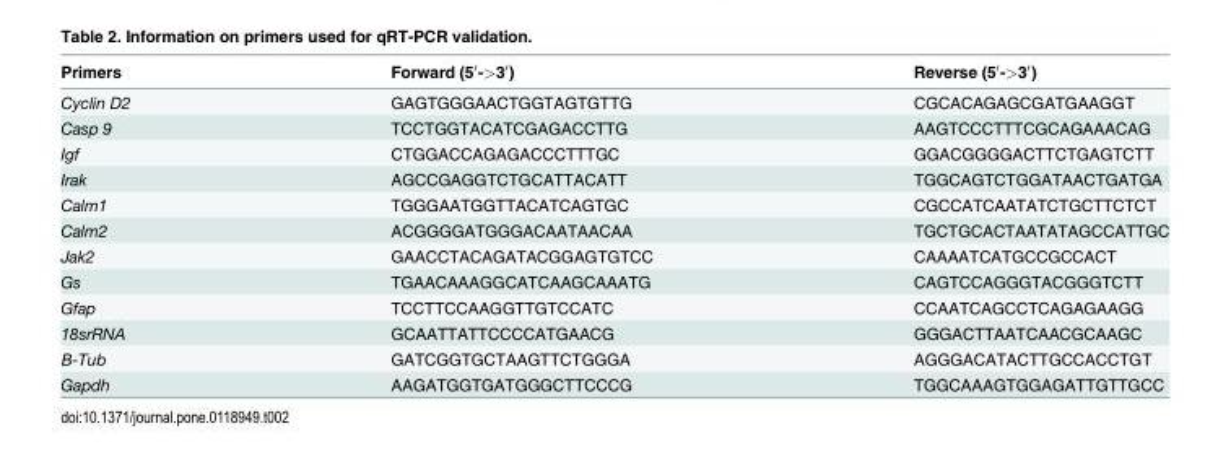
<table><thead><tr><td>Primers</td><td>Forward (5′-&gt;3′)</td><td>Reverse (5′-&gt;3′)</td></tr></thead><tbody><tr><td>Cyclin D2</td><td>GAGTGGGAACTGGTAGTGTTG</td><td>CGCACAGAGCGATGAAGGT</td></tr><tr><td>Casp 9</td><td>TCCTGGTACATCGAGACCTTG</td><td>AAGTCCCTTTCGCAGAAACAG</td></tr><tr><td>Igf</td><td>CTGGACCAGAGACCCTTTGC</td><td>GGACGGGGACTTCTGAGTCTT</td></tr><tr><td>Irak</td><td>AGCCGAGGTCTGCATTACATT</td><td>TGGCAGTCTGGATAACTGATGA</td></tr><tr><td>Calm1</td><td>TGGGAATGGTTACATCAGTGC</td><td>CGCCATCAATATCTGCTTCTCT</td></tr><tr><td>Calm2</td><td>ACGGGGATGGGACAATAACAA</td><td>TGCTGCACTAATATAGCCATTGC</td></tr><tr><td>Jak2</td><td>GAACCTACAGATACGGAGTGTCC</td><td>CAAAATCATGCCGCCACT</td></tr><tr><td>Gs</td><td>TGAACAAAGGCATCAAGCAAATG</td><td>CAGTCCAGGGTACGGGTCTT</td></tr><tr><td>Gfap</td><td>TCCTTCCAAGGTTGTCCATC</td><td>CCAATCAGCCTCAGAGAAGG</td></tr><tr><td>18srRNA</td><td>GCAATTATTCCCCATGAACG</td><td>GGGACTTAATCAACGCAAGC</td></tr><tr><td>Β-Tub</td><td>GATCGGTGCTAAGTTCTGGGA</td><td>AGGGACATACTTGCCACCTGT</td></tr><tr><td>Gapdh</td><td>AAGATGGTGATGGGCTTCCCG</td><td>TGGCAAAGTGGAGATTGTTGCC</td></tr></tbody></table>